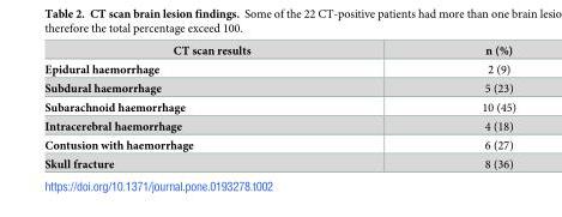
<table><thead><tr><td>CT scan results</td><td>n (%)</td></tr></thead><tbody><tr><td>Epidural haemorrhage</td><td>2 (9)</td></tr><tr><td>Subdural haemorrhage</td><td>5 (23)</td></tr><tr><td>Subarachnoid haemorrhage</td><td>10 (45)</td></tr><tr><td>Intracerebral haemorrhage</td><td>4 (18)</td></tr><tr><td>Contusion with haemorrhage</td><td>6 (27)</td></tr><tr><td>Skull fracture</td><td>8 (36)</td></tr></tbody></table>